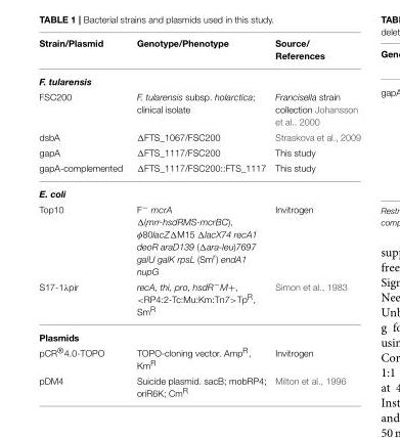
<table><thead><tr><td>Strain/Plasmid</td><td>Genotype/Phenotype</td><td>Source/ References</td></tr></thead><tbody><tr><td colspan="3">F. tularensis</td></tr><tr><td>FSC200</td><td>F. tularensis subsp. holarctica; clinical isolate</td><td>Francisella strain collection Johansson et al., 2000</td></tr><tr><td>dsbA</td><td>ΔFTS_1067/FSC200</td><td>Straskova et al., 2009</td></tr><tr><td>gapA</td><td>ΔFTS_1117/FSC200</td><td>This study</td></tr><tr><td>gapA-complemented</td><td>ΔFTS_1117/FSC200::FTS_1117</td><td>This study</td></tr><tr><td colspan="3">E. coli</td></tr><tr><td>Top10</td><td>F<sup>−</sup> mcrA Δ(mrr-hsdRMS-mcrBC), φ80lacZΔM15 ΔlacX74 recA1 deoR araD139 (Δara-leu)7697 galU galK rpsL (Sm<sup>r</sup>) endA1 nupG</td><td>Invitrogen</td></tr><tr><td>S17-1λpir</td><td>recA, thi, pro, hsdR<sup>−</sup>M+, &lt;RP4:2-Tc:Mu:Km:Tn7&gt;Tp<sup>R</sup>, Sm<sup>R</sup></td><td>Simon et al., 1983</td></tr><tr><td colspan="3">Plasmids</td></tr><tr><td>pCR®4.0-TOPO</td><td>TOPO-cloning vector. Amp<sup>R</sup>, Km<sup>R</sup></td><td>Invitrogen</td></tr><tr><td>pDM4</td><td>Suicide plasmid. sacB; mobRP4; oriR6K; Cm<sup>R</sup></td><td>Milton et al., 1996</td></tr></tbody></table>